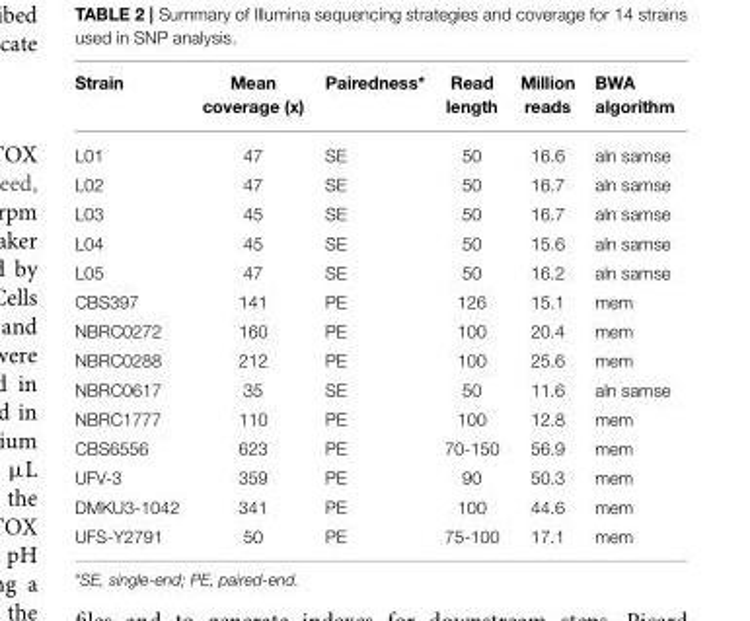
<table><thead><tr><td>Strain</td><td>Mean coverage (x)</td><td>Pairedness*</td><td>Read length</td><td>Million reads</td><td>BWA algorithm</td></tr></thead><tbody><tr><td>L01</td><td>47</td><td>SE</td><td>50</td><td>16.6</td><td>aln samse</td></tr><tr><td>L02</td><td>47</td><td>SE</td><td>50</td><td>16.7</td><td>aln samse</td></tr><tr><td>L03</td><td>45</td><td>SE</td><td>50</td><td>16.7</td><td>aln samse</td></tr><tr><td>L04</td><td>45</td><td>SE</td><td>50</td><td>15.6</td><td>aln samse</td></tr><tr><td>L05</td><td>47</td><td>SE</td><td>50</td><td>16.2</td><td>aln samse</td></tr><tr><td>CBS397</td><td>141</td><td>PE</td><td>126</td><td>15.1</td><td>mem</td></tr><tr><td>NBRC0272</td><td>160</td><td>PE</td><td>100</td><td>20.4</td><td>mem</td></tr><tr><td>NBRC0288</td><td>212</td><td>PE</td><td>100</td><td>25.6</td><td>mem</td></tr><tr><td>NBRC0617</td><td>35</td><td>SE</td><td>50</td><td>11.6</td><td>aln samse</td></tr><tr><td>NBRC1777</td><td>110</td><td>PE</td><td>100</td><td>12.8</td><td>mem</td></tr><tr><td>CBS6556</td><td>623</td><td>PE</td><td>70-150</td><td>56.9</td><td>mem</td></tr><tr><td>UFV-3</td><td>359</td><td>PE</td><td>90</td><td>50.3</td><td>mem</td></tr><tr><td>DMKU3-1042</td><td>341</td><td>PE</td><td>100</td><td>44.6</td><td>mem</td></tr><tr><td>UFS-Y2791</td><td>50</td><td>PE</td><td>75-100</td><td>17.1</td><td>mem</td></tr></tbody></table>